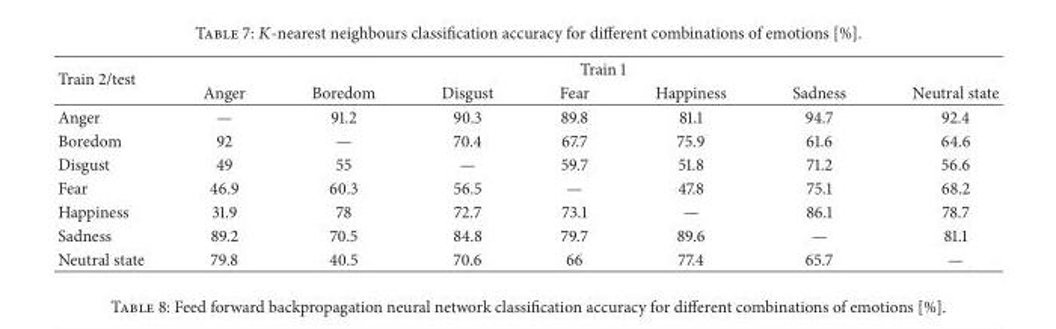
<table><thead><tr><td rowspan="2">Train 2/test</td><td colspan="7">Train 1</td></tr><tr><td>Anger</td><td>Boredom</td><td>Disgust</td><td>Fear</td><td>Happiness</td><td>Sadness</td><td>Neutral state</td></tr></thead><tbody><tr><td>Anger</td><td>—</td><td>91.2</td><td>90.3</td><td>89.8</td><td>81.1</td><td>94.7</td><td>92.4</td></tr><tr><td>Boredom</td><td>92</td><td>—</td><td>70.4</td><td>67.7</td><td>75.9</td><td>61.6</td><td>64.6</td></tr><tr><td>Disgust</td><td>49</td><td>55</td><td>—</td><td>59.7</td><td>51.8</td><td>71.2</td><td>56.6</td></tr><tr><td>Fear</td><td>46.9</td><td>60.3</td><td>56.5</td><td>—</td><td>47.8</td><td>75.1</td><td>68.2</td></tr><tr><td>Happiness</td><td>31.9</td><td>78</td><td>72.7</td><td>73.1</td><td>—</td><td>86.1</td><td>78.7</td></tr><tr><td>Sadness</td><td>89.2</td><td>70.5</td><td>84.8</td><td>79.7</td><td>89.6</td><td>—</td><td>81.1</td></tr><tr><td>Neutral state</td><td>79.8</td><td>40.5</td><td>70.6</td><td>66</td><td>77.4</td><td>65.7</td><td>—</td></tr></tbody></table>